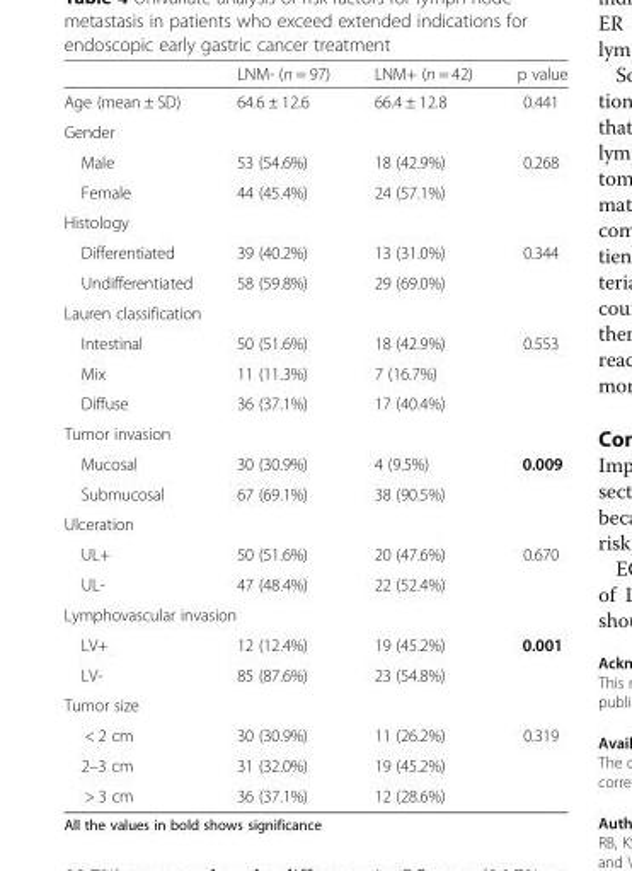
<table><thead><tr><td></td><td>LNM- (n = 97)</td><td>LNM+ (n = 42)</td><td>p value</td></tr></thead><tbody><tr><td>Age (mean ± SD)</td><td>64.6 ± 12.6</td><td>66.4 ± 12.8</td><td>0.441</td></tr><tr><td colspan="4">Gender</td></tr><tr><td>Male</td><td>53 (54.6%)</td><td>18 (42.9%)</td><td rowspan="2">0.268</td></tr><tr><td>Female</td><td>44 (45.4%)</td><td>24 (57.1%)</td></tr><tr><td colspan="4">Histology</td></tr><tr><td>Differentiated</td><td>39 (40.2%)</td><td>13 (31.0%)</td><td rowspan="2">0.344</td></tr><tr><td>Undifferentiated</td><td>58 (59.8%)</td><td>29 (69.0%)</td></tr><tr><td colspan="4">Lauren classification</td></tr><tr><td>Intestinal</td><td>50 (51.6%)</td><td>18 (42.9%)</td><td rowspan="3">0.553</td></tr><tr><td>Mix</td><td>11 (11.3%)</td><td>7 (16.7%)</td></tr><tr><td>Diffuse</td><td>36 (37.1%)</td><td>17 (40.4%)</td></tr><tr><td colspan="4">Tumor invasion</td></tr><tr><td>Mucosal</td><td>30 (30.9%)</td><td>4 (9.5%)</td><td rowspan="2">0.009</td></tr><tr><td>Submucosal</td><td>67 (69.1%)</td><td>38 (90.5%)</td></tr><tr><td colspan="4">Ulceration</td></tr><tr><td>UL+</td><td>50 (51.6%)</td><td>20 (47.6%)</td><td rowspan="2">0.670</td></tr><tr><td>UL-</td><td>47 (48.4%)</td><td>22 (52.4%)</td></tr><tr><td colspan="4">Lymphovascular invasion</td></tr><tr><td>LV+</td><td>12 (12.4%)</td><td>19 (45.2%)</td><td rowspan="2">0.001</td></tr><tr><td>LV-</td><td>85 (87.6%)</td><td>23 (54.8%)</td></tr><tr><td colspan="4">Tumor size</td></tr><tr><td>&lt; 2 cm</td><td>30 (30.9%)</td><td>11 (26.2%)</td><td rowspan="3">0.319</td></tr><tr><td>2–3 cm</td><td>31 (32.0%)</td><td>19 (45.2%)</td></tr><tr><td>&gt; 3 cm</td><td>36 (37.1%)</td><td>12 (28.6%)</td></tr></tbody></table>